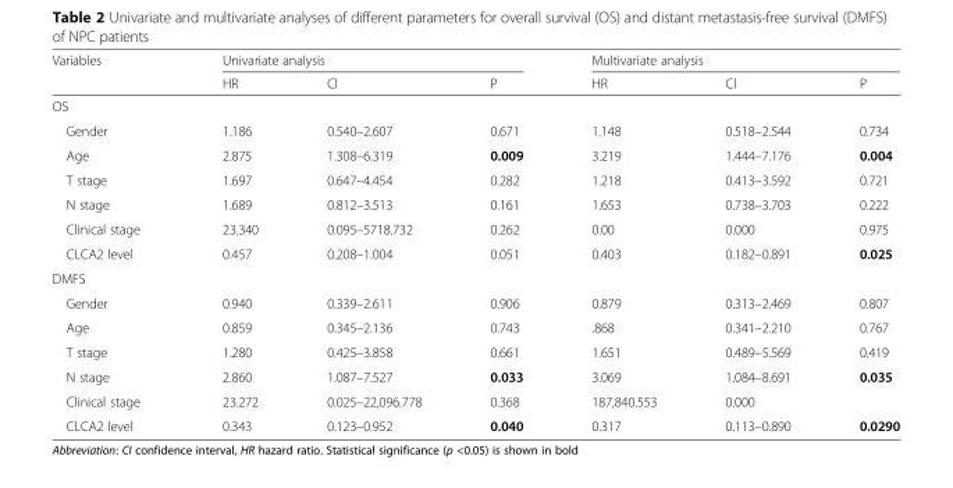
<table><thead><tr><td rowspan="2">Variables</td><td colspan="3">Univariate analysis</td><td colspan="3">Multivariate analysis</td></tr><tr><td>HR</td><td>Cl</td><td>P</td><td>HR</td><td>Cl</td><td>P</td></tr></thead><tbody><tr><td colspan="7">OS</td></tr><tr><td>Gender</td><td>1.186</td><td>0.540–2.607</td><td>0.671</td><td>1.148</td><td>0.518–2.544</td><td>0.734</td></tr><tr><td>Age</td><td>2.875</td><td>1.308–6.319</td><td>0.009</td><td>3.219</td><td>1.444–7.176</td><td>0.004</td></tr><tr><td>T stage</td><td>1.697</td><td>0.647–4.454</td><td>0.282</td><td>1.218</td><td>0.413–3.592</td><td>0.721</td></tr><tr><td>N stage</td><td>1.689</td><td>0.812–3.513</td><td>0.161</td><td>1.653</td><td>0.738–3.703</td><td>0.222</td></tr><tr><td>Clinical stage</td><td>23.340</td><td>0.095–5718.732</td><td>0.262</td><td>0.00</td><td>0.000</td><td>0.975</td></tr><tr><td>CLCA2 level</td><td>0.457</td><td>0.208–1.004</td><td>0.051</td><td>0.403</td><td>0.182–0.891</td><td>0.025</td></tr><tr><td colspan="7">DMFS</td></tr><tr><td>Gender</td><td>0.940</td><td>0.339–2.611</td><td>0.906</td><td>0.879</td><td>0.313–2.469</td><td>0.807</td></tr><tr><td>Age</td><td>0.859</td><td>0.345–2.136</td><td>0.743</td><td>.868</td><td>0.341–2.210</td><td>0.767</td></tr><tr><td>T stage</td><td>1.280</td><td>0.425–3.858</td><td>0.661</td><td>1.651</td><td>0.489–5.569</td><td>0.419</td></tr><tr><td>N stage</td><td>2.860</td><td>1.087–7.527</td><td>0.033</td><td>3.069</td><td>1.084–8.691</td><td>0.035</td></tr><tr><td>Clinical stage</td><td>23.272</td><td>0.025–22,096.778</td><td>0.368</td><td>187,840.553</td><td>0.000</td><td></td></tr><tr><td>CLCA2 level</td><td>0.343</td><td>0.123–0.952</td><td>0.040</td><td>0.317</td><td>0.113–0.890</td><td>0.0290</td></tr></tbody></table>